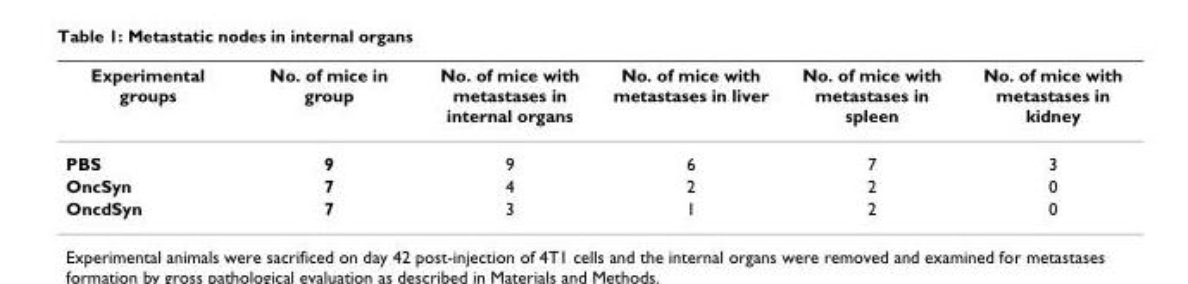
<table><thead><tr><td>Experimental groups</td><td>No. of mice in group</td><td>No. of mice with metastases in internal organs</td><td>No. of mice with metastases in liver</td><td>No. of mice with metastases in spleen</td><td>No. of mice with metastases in kidney</td></tr></thead><tbody><tr><td>PBS</td><td>9</td><td>9</td><td>6</td><td>7</td><td>3</td></tr><tr><td>OncSyn</td><td>7</td><td>4</td><td>2</td><td>2</td><td>0</td></tr><tr><td>OncdSyn</td><td>7</td><td>3</td><td>1</td><td>2</td><td>0</td></tr></tbody></table>